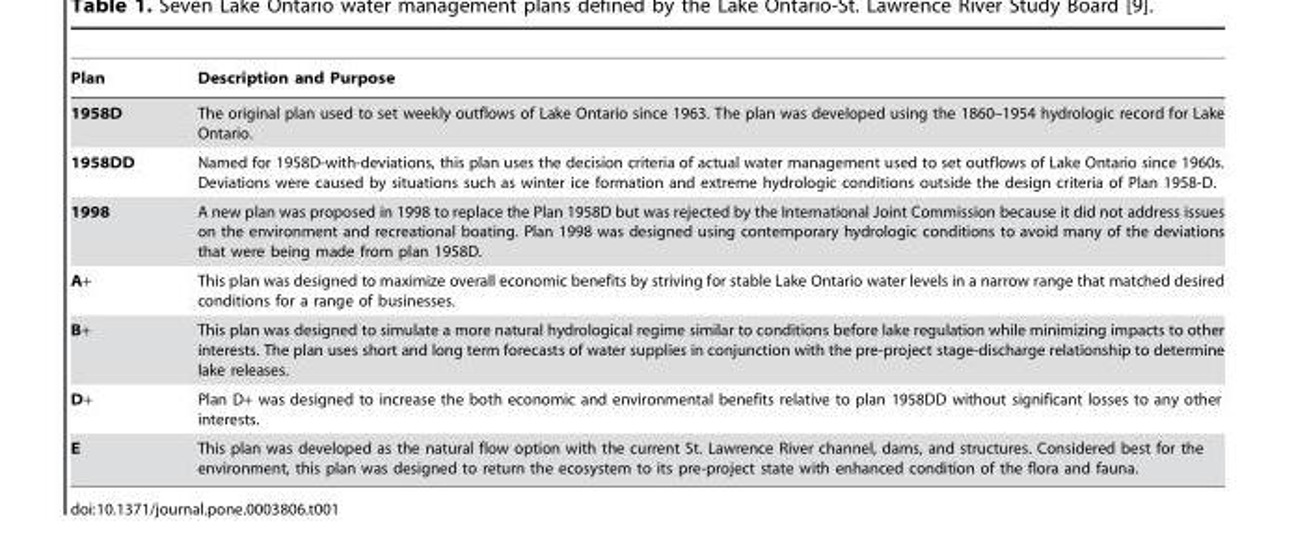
<table><thead><tr><td>Plan</td><td>Description and Purpose</td></tr></thead><tbody><tr><td>1958D</td><td>The original plan used to set weekly outflows of Lake Ontario since 1963. The plan was developed using the 1860–1954 hydrologic record for Lake Ontario.</td></tr><tr><td>1958DD</td><td>Named for 1958D-with-deviations, this plan uses the decision criteria of actual water management used to set outflows of Lake Ontario since 1960s. Deviations were caused by situations such as winter ice formation and extreme hydrologic conditions outside the design criteria of Plan 1958-D.</td></tr><tr><td>1998</td><td>A new plan was proposed in 1998 to replace the Plan 1958D but was rejected by the International Joint Commission because it did not address issues on the environment and recreational boating. Plan 1998 was designed using contemporary hydrologic conditions to avoid many of the deviations that were being made from plan 1958D.</td></tr><tr><td>A+</td><td>This plan was designed to maximize overall economic benefits by striving for stable Lake Ontario water levels in a narrow range that matched desired conditions for a range of businesses.</td></tr><tr><td>B+</td><td>This plan was designed to simulate a more natural hydrological regime similar to conditions before lake regulation while minimizing impacts to other interests. The plan uses short and long term forecasts of water supplies in conjunction with the pre-project stage-discharge relationship to determine lake releases.</td></tr><tr><td>D+</td><td>Plan D+ was designed to increase the both economic and environmental benefits relative to plan 1958DD without significant losses to any other interests.</td></tr><tr><td>E</td><td>This plan was developed as the natural flow option with the current St. Lawrence River channel, dams, and structures. Considered best for the environment, this plan was designed to return the ecosystem to its pre-project state with enhanced condition of the flora and fauna.</td></tr></tbody></table>